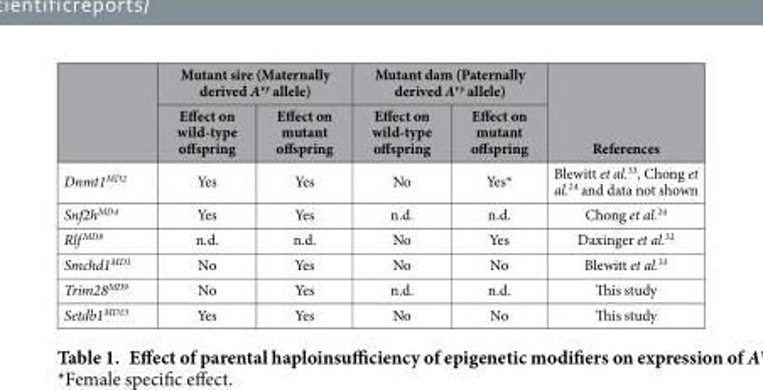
<table><thead><tr><td rowspan="2"></td><td colspan="2">Mutant sire (Maternally derived A<sup>vy</sup> allele)</td><td colspan="2">Mutant dam (Paternally derived A<sup>vy</sup> allele)</td><td rowspan="2">References</td></tr><tr><td>Effect on wild-type offspring</td><td>Effect on mutant offspring</td><td>Effect on wild-type offspring</td><td>Effect on mutant offspring</td></tr></thead><tbody><tr><td>Dnmt1<sup>MD2</sup></td><td>Yes</td><td>Yes</td><td>No</td><td>Yes*</td><td>Blewitt et al.<sup>33</sup>, Chong et al.<sup>24</sup> and data not shown</td></tr><tr><td>Snf2h<sup>MD4</sup></td><td>Yes</td><td>Yes</td><td>n.d.</td><td>n.d.</td><td>Chong et al.<sup>24</sup></td></tr><tr><td>Rlf <sup>MD8</sup></td><td>n.d.</td><td>n.d.</td><td>No</td><td>Yes</td><td>Daxinger et al.<sup>32</sup></td></tr><tr><td>Smchd1<sup>MD1</sup></td><td>No</td><td>Yes</td><td>No</td><td>No</td><td>Blewitt et al.<sup>33</sup></td></tr><tr><td>Trim28<sup>MD9</sup></td><td>No</td><td>Yes</td><td>n.d.</td><td>n.d.</td><td>This study</td></tr><tr><td>Setdb1<sup>MD13</sup></td><td>Yes</td><td>Yes</td><td>No</td><td>No</td><td>This study</td></tr></tbody></table>